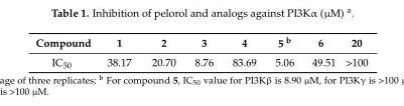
<table><thead><tr><td>Compound</td><td>1</td><td>2</td><td>3</td><td>4</td><td>5 b</td><td>6</td><td>20</td></tr></thead><tbody><tr><td>IC50</td><td>38.17</td><td>20.70</td><td>8.76</td><td>83.69</td><td>5.06</td><td>49.51</td><td>&gt;100</td></tr></tbody></table>